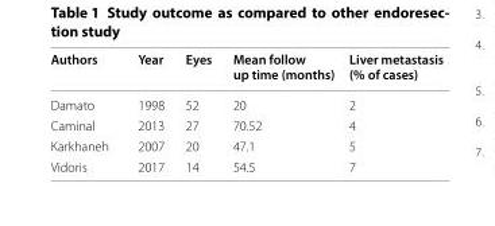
<table><thead><tr><td>Authors</td><td>Year</td><td>Eyes</td><td>Mean follow up time (months)</td><td>Liver metastasis (% of cases)</td></tr></thead><tbody><tr><td>Damato</td><td>1998</td><td>52</td><td>20</td><td>2</td></tr><tr><td>Caminal</td><td>2013</td><td>27</td><td>70.52</td><td>4</td></tr><tr><td>Karkhaneh</td><td>2007</td><td>20</td><td>47.1</td><td>5</td></tr><tr><td>Vidoris</td><td>2017</td><td>14</td><td>54.5</td><td>7</td></tr></tbody></table>